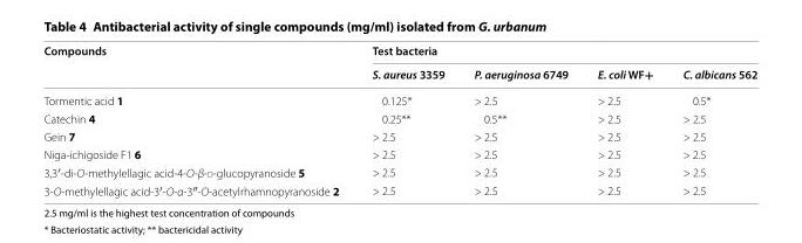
<table><thead><tr><td rowspan="2">Compounds</td><td colspan="4">Test bacteria</td></tr><tr><td>S. aureus 3359</td><td>P. aeruginosa 6749</td><td>E. coli WF+</td><td>C. albicans 562</td></tr></thead><tbody><tr><td>Tormentic acid 1</td><td>0.125*</td><td>&gt; 2.5</td><td>&gt; 2.5</td><td>0.5*</td></tr><tr><td>Catechin 4</td><td>0.25**</td><td>0.5**</td><td>&gt; 2.5</td><td>&gt; 2.5</td></tr><tr><td>Gein 7</td><td>&gt; 2.5</td><td>&gt; 2.5</td><td>&gt; 2.5</td><td>&gt; 2.5</td></tr><tr><td>Niga-ichigoside F1 6</td><td>&gt; 2.5</td><td>&gt; 2.5</td><td>&gt; 2.5</td><td>&gt; 2.5</td></tr><tr><td>3,3′-di-O-methylellagic acid-4-O-β-d-glucopyranoside 5</td><td>&gt; 2.5</td><td>&gt; 2.5</td><td>&gt; 2.5</td><td>&gt; 2.5</td></tr><tr><td>3-O-methylellagic acid-3′-O-α-3″-O-acetylrhamnopyranoside 2</td><td>&gt; 2.5</td><td>&gt; 2.5</td><td>&gt; 2.5</td><td>&gt; 2.5</td></tr></tbody></table>